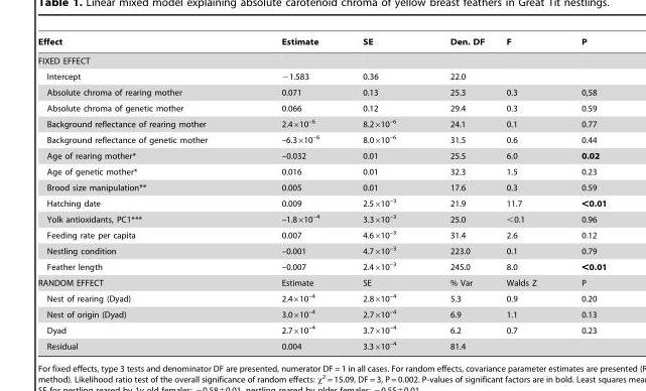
<table><thead><tr><td>Effect</td><td>Estimate</td><td>SE</td><td>Den. DF</td><td>F</td><td>P</td></tr></thead><tbody><tr><td colspan="6">FIXED EFFECT</td></tr><tr><td>Intercept</td><td>−1.583</td><td>0.36</td><td>22.0</td><td></td><td></td></tr><tr><td>Absolute chroma of rearing mother</td><td>0.071</td><td>0.13</td><td>25.3</td><td>0.3</td><td>0,58</td></tr><tr><td>Absolute chroma of genetic mother</td><td>0.066</td><td>0.12</td><td>29.4</td><td>0.3</td><td>0.59</td></tr><tr><td>Background reflectance of rearing mother</td><td>2.4×10<sup>–6</sup></td><td>8.2×10<sup>–6</sup></td><td>24.1</td><td>0.1</td><td>0.77</td></tr><tr><td>Background reflectance of genetic mother</td><td>–6.3×10<sup>–6</sup></td><td>8.0×10<sup>–6</sup></td><td>31.5</td><td>0.6</td><td>0.44</td></tr><tr><td>Age of rearing mother*</td><td>–0.032</td><td>0.01</td><td>25.5</td><td>6.0</td><td>0.02</td></tr><tr><td>Age of genetic mother*</td><td>0.016</td><td>0.01</td><td>32.3</td><td>1.5</td><td>0.23</td></tr><tr><td>Brood size manipulation**</td><td>0.005</td><td>0.01</td><td>17.6</td><td>0.3</td><td>0.59</td></tr><tr><td>Hatching date</td><td>0.009</td><td>2.5×10<sup>–3</sup></td><td>21.9</td><td>11.7</td><td>&lt;0.01</td></tr><tr><td>Yolk antioxidants, PC1***</td><td>–1.8×10<sup>–4</sup></td><td>3.3×10<sup>–3</sup></td><td>25.0</td><td>&lt;0.1</td><td>0.96</td></tr><tr><td>Feeding rate per capita</td><td>0.007</td><td>4.6×10<sup>–3</sup></td><td>31.4</td><td>2.6</td><td>0.12</td></tr><tr><td>Nestling condition</td><td>–0.001</td><td>4.7×10<sup>–3</sup></td><td>223.0</td><td>0.1</td><td>0.79</td></tr><tr><td>Feather length</td><td>–0.007</td><td>2.4×10<sup>–3</sup></td><td>245.0</td><td>8.0</td><td>&lt;0.01</td></tr><tr><td>RANDOM EFFECT</td><td>Estimate</td><td>SE</td><td>% Var</td><td>Walds Z</td><td>P</td></tr><tr><td>Nest of rearing (Dyad)</td><td>2.4×10<sup>–4</sup></td><td>2.8×10<sup>–4</sup></td><td>5.3</td><td>0.9</td><td>0.20</td></tr><tr><td>Nest of origin (Dyad)</td><td>3.0×10<sup>–4</sup></td><td>2.7×10<sup>–4</sup></td><td>6.9</td><td>1.1</td><td>0.13</td></tr><tr><td>Dyad</td><td>2.7×10<sup>–4</sup></td><td>3.7×10<sup>–4</sup></td><td>6.2</td><td>0.7</td><td>0.23</td></tr><tr><td>Residual</td><td>0.004</td><td>3.3×10<sup>–4</sup></td><td>81.4</td><td></td><td></td></tr></tbody></table>